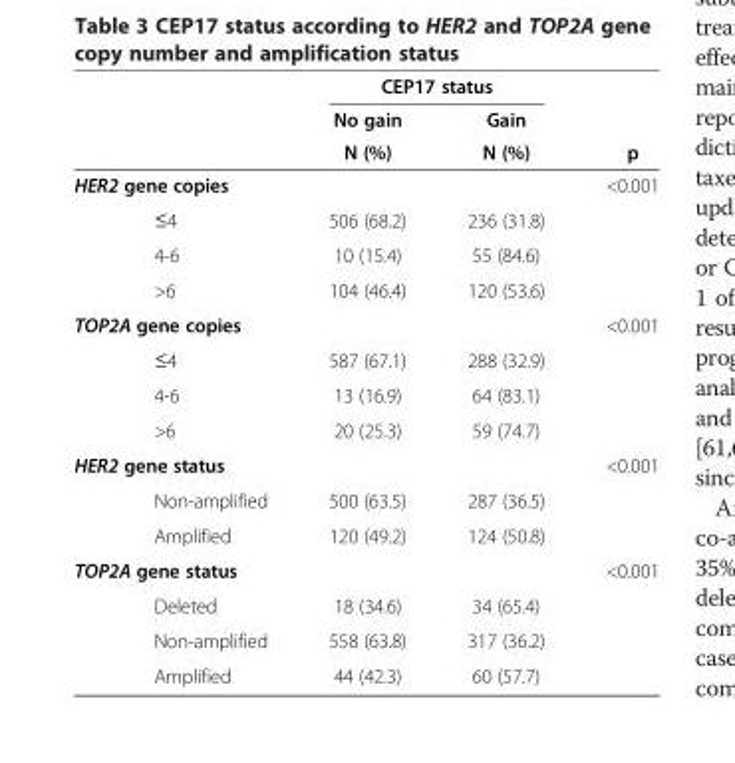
<table><thead><tr><td rowspan="3"></td><td colspan="2">CEP17 status</td><td rowspan="3">p</td></tr><tr><td rowspan="2">No gain N (%)</td><td rowspan="2">Gain N (%)</td></tr><tr></tr></thead><tbody><tr><td>HER2 gene copies</td><td></td><td></td><td>&lt;0.001</td></tr><tr><td>≤4</td><td>506 (68.2)</td><td>236 (31.8)</td><td></td></tr><tr><td>4-6</td><td>10 (15.4)</td><td>55 (84.6)</td><td></td></tr><tr><td>&gt;6</td><td>104 (46.4)</td><td>120 (53.6)</td><td></td></tr><tr><td>TOP2A gene copies</td><td></td><td></td><td>&lt;0.001</td></tr><tr><td>≤4</td><td>587 (67.1)</td><td>288 (32.9)</td><td></td></tr><tr><td>4-6</td><td>13 (16.9)</td><td>64 (83.1)</td><td></td></tr><tr><td>&gt;6</td><td>20 (25.3)</td><td>59 (74.7)</td><td></td></tr><tr><td>HER2 gene status</td><td></td><td></td><td>&lt;0.001</td></tr><tr><td>Non-amplified</td><td>500 (63.5)</td><td>287 (36.5)</td><td></td></tr><tr><td>Amplified</td><td>120 (49.2)</td><td>124 (50.8)</td><td></td></tr><tr><td>TOP2A gene status</td><td></td><td></td><td>&lt;0.001</td></tr><tr><td>Deleted</td><td>18 (34.6)</td><td>34 (65.4)</td><td></td></tr><tr><td>Non-amplified</td><td>558 (63.8)</td><td>317 (36.2)</td><td></td></tr><tr><td>Amplified</td><td>44 (42.3)</td><td>60 (57.7)</td><td></td></tr></tbody></table>